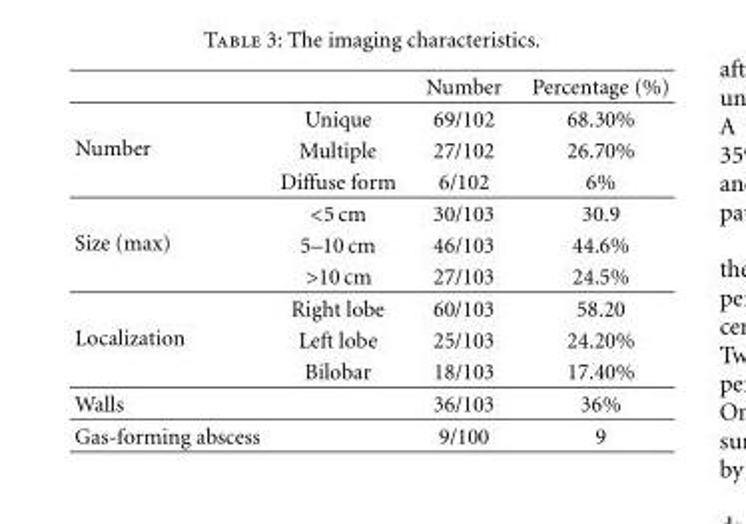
<table><thead><tr><td></td><td></td><td>Number</td><td>Percentage (%)</td></tr></thead><tbody><tr><td rowspan="3">Number</td><td>Unique</td><td>69/102</td><td>68.30%</td></tr><tr><td>Multiple</td><td>27/102</td><td>26.70%</td></tr><tr><td>Diffuse form</td><td>6/102</td><td>6%</td></tr><tr><td rowspan="3">Size (max)</td><td>&lt;5 cm</td><td>30/103</td><td>30.9</td></tr><tr><td>5–10 cm</td><td>46/103</td><td>44.6%</td></tr><tr><td>&gt;10 cm</td><td>27/103</td><td>24.5%</td></tr><tr><td rowspan="3">Localization</td><td>Right lobe</td><td>60/103</td><td>58.20</td></tr><tr><td>Left lobe</td><td>25/103</td><td>24.20%</td></tr><tr><td>Bilobar</td><td>18/103</td><td>17.40%</td></tr><tr><td>Walls</td><td></td><td>36/103</td><td>36%</td></tr><tr><td>Gas-forming abscess</td><td></td><td>9/100</td><td>9</td></tr></tbody></table>